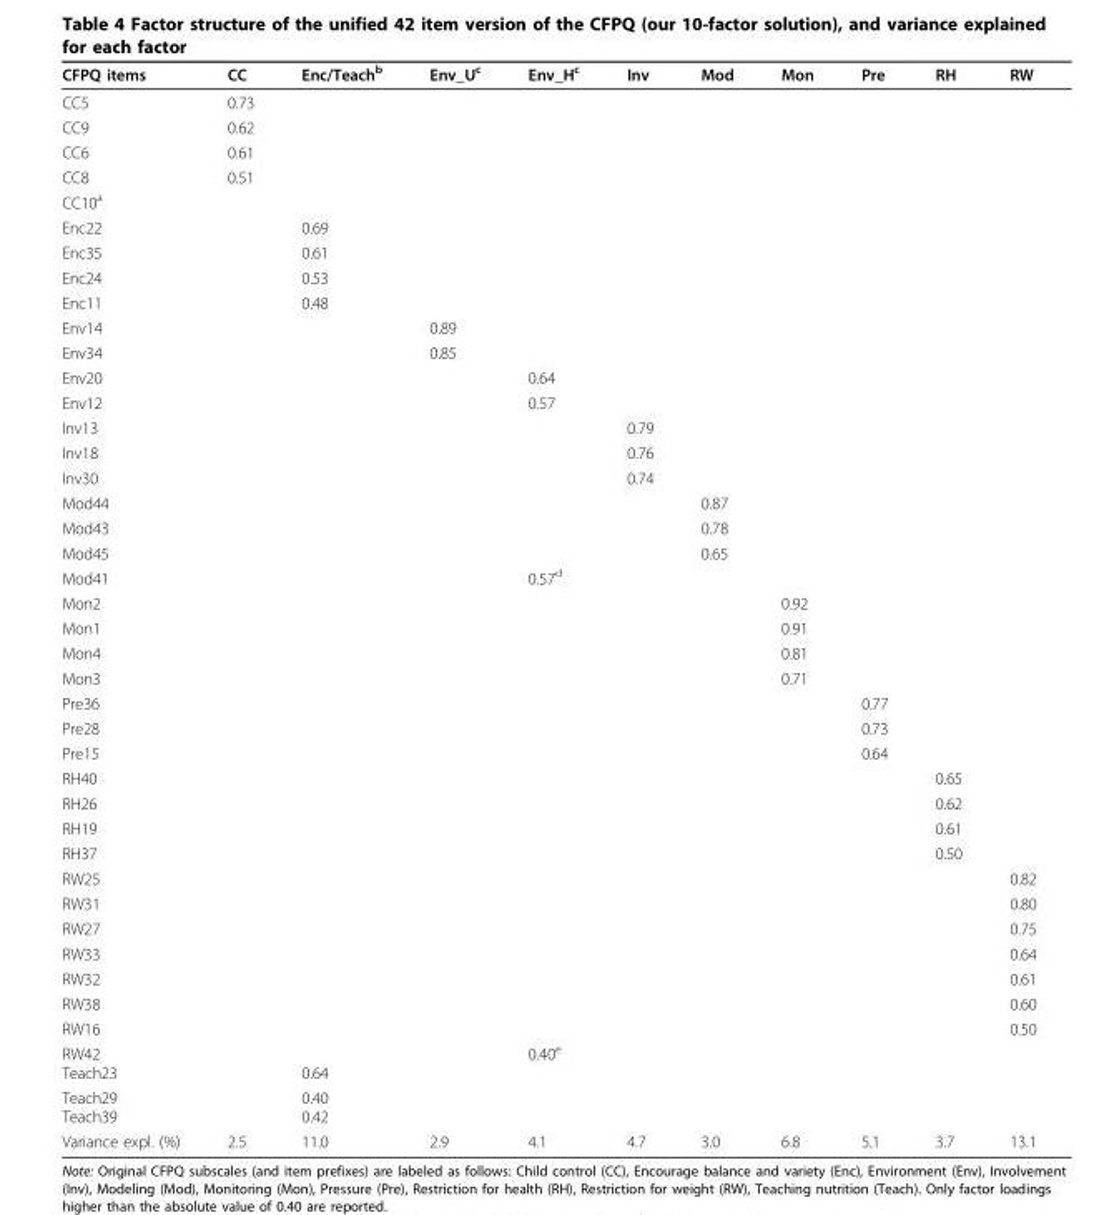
<table><thead><tr><td>CFPQ items</td><td>CC</td><td>Enc/Teach<sup>b</sup></td><td>Env_U<sup>c</sup></td><td>Env_H<sup>c</sup></td><td>Inv</td><td>Mod</td><td>Mon</td><td>Pre</td><td>RH</td><td>RW</td></tr></thead><tbody><tr><td>CC5</td><td>0.73</td><td></td><td></td><td></td><td></td><td></td><td></td><td></td><td></td><td></td></tr><tr><td>CC9</td><td>0.62</td><td></td><td></td><td></td><td></td><td></td><td></td><td></td><td></td><td></td></tr><tr><td>CC6</td><td>0.61</td><td></td><td></td><td></td><td></td><td></td><td></td><td></td><td></td><td></td></tr><tr><td>CC8</td><td>0.51</td><td></td><td></td><td></td><td></td><td></td><td></td><td></td><td></td><td></td></tr><tr><td colspan="11">CC10<sup>a</sup></td></tr><tr><td>Enc22</td><td></td><td>0.69</td><td></td><td></td><td></td><td></td><td></td><td></td><td></td><td></td></tr><tr><td>Enc35</td><td></td><td>0.61</td><td></td><td></td><td></td><td></td><td></td><td></td><td></td><td></td></tr><tr><td>Enc24</td><td></td><td>0.53</td><td></td><td></td><td></td><td></td><td></td><td></td><td></td><td></td></tr><tr><td>Enc11</td><td></td><td>0.48</td><td></td><td></td><td></td><td></td><td></td><td></td><td></td><td></td></tr><tr><td>Env14</td><td></td><td></td><td>0.89</td><td></td><td></td><td></td><td></td><td></td><td></td><td></td></tr><tr><td>Env34</td><td></td><td></td><td>0.85</td><td></td><td></td><td></td><td></td><td></td><td></td><td></td></tr><tr><td>Env20</td><td></td><td></td><td></td><td>0.64</td><td></td><td></td><td></td><td></td><td></td><td></td></tr><tr><td>Env12</td><td></td><td></td><td></td><td>0.57</td><td></td><td></td><td></td><td></td><td></td><td></td></tr><tr><td>Inv13</td><td></td><td></td><td></td><td></td><td>0.79</td><td></td><td></td><td></td><td></td><td></td></tr><tr><td>Inv18</td><td></td><td></td><td></td><td></td><td>0.76</td><td></td><td></td><td></td><td></td><td></td></tr><tr><td>Inv30</td><td></td><td></td><td></td><td></td><td>0.74</td><td></td><td></td><td></td><td></td><td></td></tr><tr><td>Mod44</td><td></td><td></td><td></td><td></td><td></td><td>0.87</td><td></td><td></td><td></td><td></td></tr><tr><td>Mod43</td><td></td><td></td><td></td><td></td><td></td><td>0.78</td><td></td><td></td><td></td><td></td></tr><tr><td>Mod45</td><td></td><td></td><td></td><td></td><td></td><td>0.65</td><td></td><td></td><td></td><td></td></tr><tr><td>Mod41</td><td></td><td></td><td></td><td>0.57<sup>d</sup></td><td></td><td></td><td></td><td></td><td></td><td></td></tr><tr><td>Mon2</td><td></td><td></td><td></td><td></td><td></td><td></td><td>0.92</td><td></td><td></td><td></td></tr><tr><td>Mon1</td><td></td><td></td><td></td><td></td><td></td><td></td><td>0.91</td><td></td><td></td><td></td></tr><tr><td>Mon4</td><td></td><td></td><td></td><td></td><td></td><td></td><td>0.81</td><td></td><td></td><td></td></tr><tr><td>Mon3</td><td></td><td></td><td></td><td></td><td></td><td></td><td>0.71</td><td></td><td></td><td></td></tr><tr><td>Pre36</td><td></td><td></td><td></td><td></td><td></td><td></td><td></td><td>0.77</td><td></td><td></td></tr><tr><td>Pre28</td><td></td><td></td><td></td><td></td><td></td><td></td><td></td><td>0.73</td><td></td><td></td></tr><tr><td>Pre15</td><td></td><td></td><td></td><td></td><td></td><td></td><td></td><td>0.64</td><td></td><td></td></tr><tr><td>RH40</td><td></td><td></td><td></td><td></td><td></td><td></td><td></td><td></td><td>0.65</td><td></td></tr><tr><td>RH26</td><td></td><td></td><td></td><td></td><td></td><td></td><td></td><td></td><td>0.62</td><td></td></tr><tr><td>RH19</td><td></td><td></td><td></td><td></td><td></td><td></td><td></td><td></td><td>0.61</td><td></td></tr><tr><td>RH37</td><td></td><td></td><td></td><td></td><td></td><td></td><td></td><td></td><td>0.50</td><td></td></tr><tr><td>RW25</td><td></td><td></td><td></td><td></td><td></td><td></td><td></td><td></td><td></td><td>0.82</td></tr><tr><td>RW31</td><td></td><td></td><td></td><td></td><td></td><td></td><td></td><td></td><td></td><td>0.80</td></tr><tr><td>RW27</td><td></td><td></td><td></td><td></td><td></td><td></td><td></td><td></td><td></td><td>0.75</td></tr><tr><td>RW33</td><td></td><td></td><td></td><td></td><td></td><td></td><td></td><td></td><td></td><td>0.64</td></tr><tr><td>RW32</td><td></td><td></td><td></td><td></td><td></td><td></td><td></td><td></td><td></td><td>0.61</td></tr><tr><td>RW38</td><td></td><td></td><td></td><td></td><td></td><td></td><td></td><td></td><td></td><td>0.60</td></tr><tr><td>RW16</td><td></td><td></td><td></td><td></td><td></td><td></td><td></td><td></td><td></td><td>0.50</td></tr><tr><td>RW42 Teach23</td><td></td><td>0.64</td><td></td><td>0.40<sup>e</sup></td><td></td><td></td><td></td><td></td><td></td><td></td></tr><tr><td>Teach29 Teach39</td><td></td><td>0.40 0.42</td><td></td><td></td><td></td><td></td><td></td><td></td><td></td><td></td></tr><tr><td>Variance expl. (%)</td><td>2.5</td><td>11.0</td><td>2.9</td><td>4.1</td><td>4.7</td><td>3.0</td><td>6.8</td><td>5.1</td><td>3.7</td><td>13.1</td></tr></tbody></table>